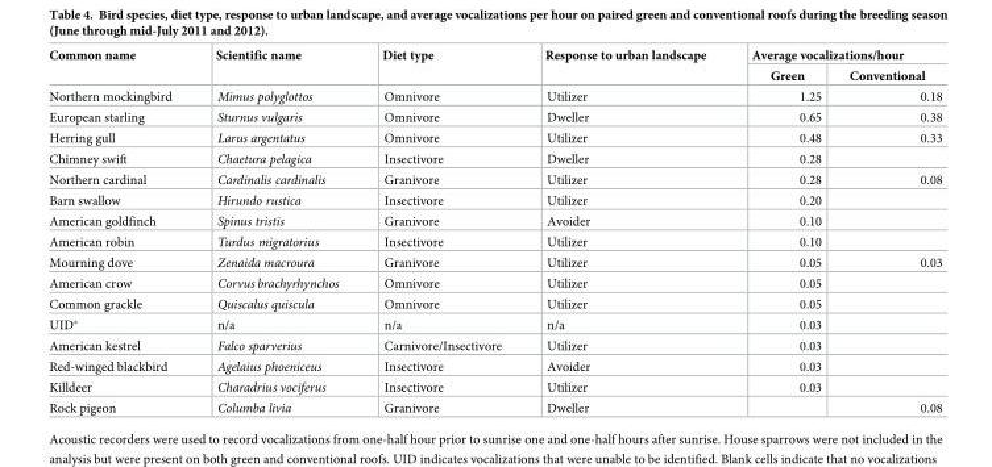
<table><thead><tr><td rowspan="2">Common name</td><td rowspan="2">Scientific name</td><td rowspan="2">Diet type</td><td rowspan="2">Response to urban landscape</td><td colspan="2">Average vocalizations/hour</td></tr><tr><td>Green</td><td>Conventional</td></tr></thead><tbody><tr><td>Northern mockingbird</td><td>Mimus polyglottos</td><td>Omnivore</td><td>Utilizer</td><td>1.25</td><td>0.18</td></tr><tr><td>European starling</td><td>Sturnus vulgaris</td><td>Omnivore</td><td>Dweller</td><td>0.65</td><td>0.38</td></tr><tr><td>Herring gull</td><td>Larus argentatus</td><td>Omnivore</td><td>Utilizer</td><td>0.48</td><td>0.33</td></tr><tr><td>Chimney swift</td><td>Chaetura pelagica</td><td>Insectivore</td><td>Dweller</td><td>0.28</td><td></td></tr><tr><td>Northern cardinal</td><td>Cardinalis cardinalis</td><td>Granivore</td><td>Utilizer</td><td>0.28</td><td>0.08</td></tr><tr><td>Barn swallow</td><td>Hirundo rustica</td><td>Insectivore</td><td>Utilizer</td><td>0.20</td><td></td></tr><tr><td>American goldfinch</td><td>Spinus tristis</td><td>Granivore</td><td>Avoider</td><td>0.10</td><td></td></tr><tr><td>American robin</td><td>Turdus migratorius</td><td>Insectivore</td><td>Utilizer</td><td>0.10</td><td></td></tr><tr><td>Mourning dove</td><td>Zenaida macroura</td><td>Granivore</td><td>Utilizer</td><td>0.05</td><td>0.03</td></tr><tr><td>American crow</td><td>Corvus brachyrhynchos</td><td>Omnivore</td><td>Utilizer</td><td>0.05</td><td></td></tr><tr><td>Common grackle</td><td>Quiscalus quiscula</td><td>Omnivore</td><td>Utilizer</td><td>0.05</td><td></td></tr><tr><td>UID*</td><td>n/a</td><td>n/a</td><td>n/a</td><td>0.03</td><td></td></tr><tr><td>American kestrel</td><td>Falco sparverius</td><td>Carnivore/Insectivore</td><td>Utilizer</td><td>0.03</td><td></td></tr><tr><td>Red-winged blackbird</td><td>Agelaius phoeniceus</td><td>Insectivore</td><td>Avoider</td><td>0.03</td><td></td></tr><tr><td>Killdeer</td><td>Charadrius vociferus</td><td>Insectivore</td><td>Utilizer</td><td>0.03</td><td></td></tr><tr><td>Rock pigeon</td><td>Columba livia</td><td>Granivore</td><td>Dweller</td><td></td><td>0.08</td></tr></tbody></table>